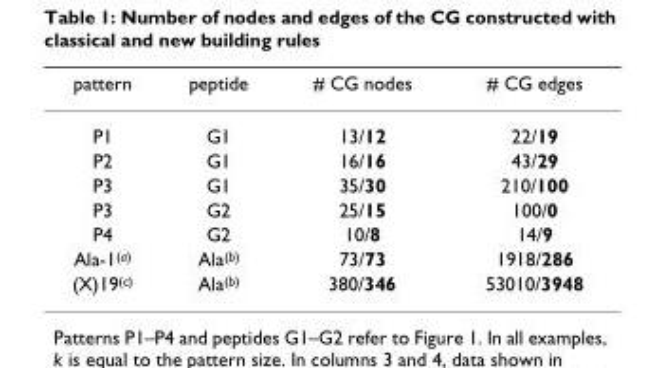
<table><thead><tr><td>pattern</td><td>peptide</td><td># CG nodes</td><td># CG edges</td></tr></thead><tbody><tr><td>P1</td><td>G1</td><td>13/12</td><td>22/19</td></tr><tr><td>P2</td><td>G1</td><td>16/16</td><td>43/29</td></tr><tr><td>P3</td><td>G1</td><td>35/30</td><td>210/100</td></tr><tr><td>P3</td><td>G2</td><td>25/15</td><td>100/0</td></tr><tr><td>P4</td><td>G2</td><td>10/8</td><td>14/9</td></tr><tr><td>Ala-1<sup>(a)</sup></td><td>Ala<sup>(b)</sup></td><td>73/73</td><td>1918/286</td></tr><tr><td>(X)19<sup>(c)</sup></td><td>Ala<sup>(b)</sup></td><td>380/346</td><td>53010/3948</td></tr></tbody></table>